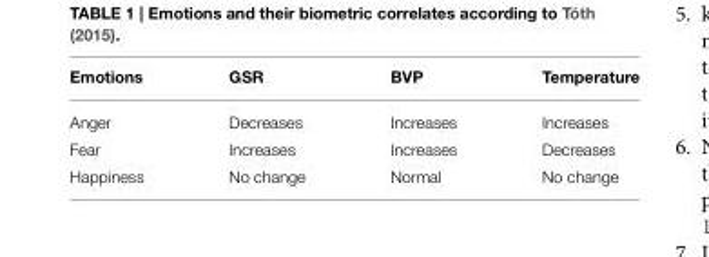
<table><thead><tr><td>Emotions</td><td>GSR</td><td>BVP</td><td>Temperature</td></tr></thead><tbody><tr><td>Anger</td><td>Decreases</td><td>Increases</td><td>Increases</td></tr><tr><td>Fear</td><td>Increases</td><td>Increases</td><td>Decreases</td></tr><tr><td>Happiness</td><td>No change</td><td>Normal</td><td>No change</td></tr></tbody></table>